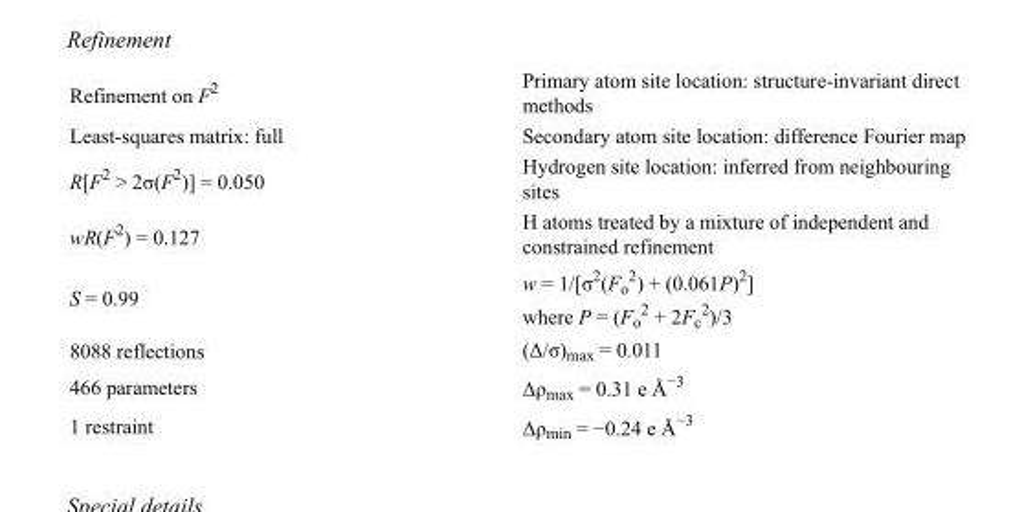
<table><tbody><tr><td>Refinement on F<sup>2</sup></td><td>Primary atom site location: structure-invariant direct methods</td></tr><tr><td>Least-squares matrix: full</td><td>Secondary atom site location: difference Fourier map</td></tr><tr><td>R[F<sup>2</sup> &gt; 2σ(F<sup>2</sup>)] = 0.050</td><td>Hydrogen site location: inferred from neighbouring sites</td></tr><tr><td>wR(F<sup>2</sup>) = 0.127</td><td>H atoms treated by a mixture of independent and constrained refinement</td></tr><tr><td>S = 0.99</td><td>w = 1/[σ<sup>2</sup>(F<sub>o</sub> <sup>2</sup>) + (0.061P)<sup>2</sup>] where P = (F<sub>o</sub> <sup>2</sup> + 2F<sub>c</sub> <sup>2</sup>)/3</td></tr><tr><td>8088 reflections</td><td>(Δ/σ)<sub>max</sub> = 0.011</td></tr><tr><td>466 parameters</td><td>Δρ<sub>max</sub> = 0.31 e Å<sup>−3</sup></td></tr><tr><td>1 restraint</td><td>Δρ<sub>min</sub> = −0.24 e Å<sup>−3</sup></td></tr></tbody></table>